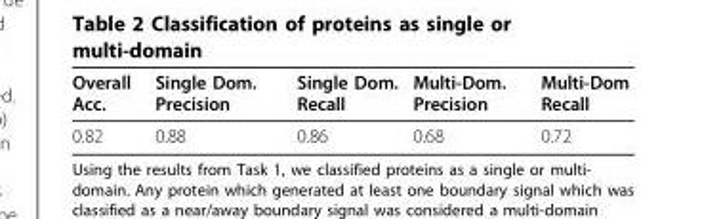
<table><thead><tr><td>Overall Acc.</td><td>Single Dom. Precision</td><td>Single Dom. Recall</td><td>Multi-Dom. Precision</td><td>Multi-Dom Recall</td></tr></thead><tbody><tr><td>0.82</td><td>0.88</td><td>0.86</td><td>0.68</td><td>0.72</td></tr></tbody></table>